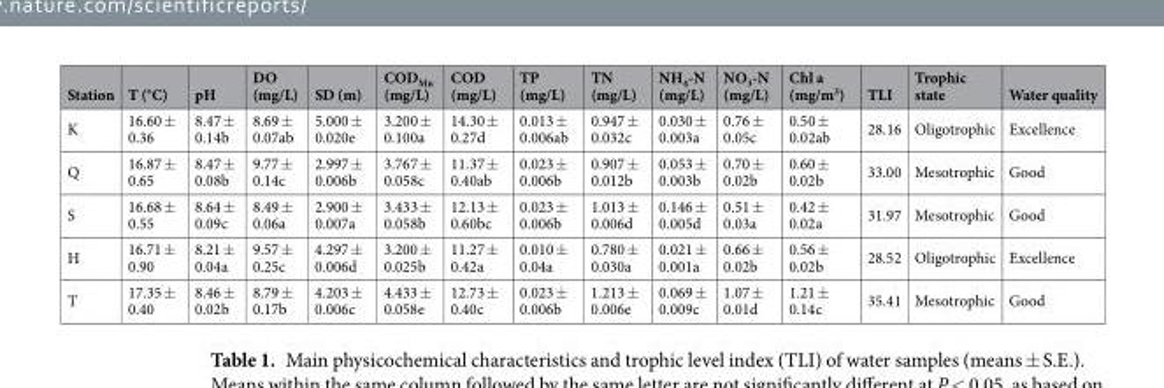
<table><thead><tr><td>Station</td><td>T (°C)</td><td>pH</td><td>DO (mg/L)</td><td>SD (m)</td><td>COD<sub>Mn</sub> (mg/L)</td><td>COD (mg/L)</td><td>TP (mg/L)</td><td>TN (mg/L)</td><td>NH<sub>4</sub>-N (mg/L)</td><td>NO<sub>3</sub>-N (mg/L)</td><td>Chl a (mg/m<sup>3</sup>)</td><td>TLI</td><td>Trophic state</td><td>Water quality</td></tr></thead><tbody><tr><td>K</td><td>16.60 ± 0.36</td><td>8.47 ± 0.14b</td><td>8.69 ± 0.07ab</td><td>5.000 ± 0.020e</td><td>3.200 ± 0.100a</td><td>14.30 ± 0.27d</td><td>0.013 ± 0.006ab</td><td>0.947 ± 0.032c</td><td>0.030 ± 0.003a</td><td>0.76 ± 0.05c</td><td>0.50 ± 0.02ab</td><td>28.16</td><td>Oligotrophic</td><td>Excellence</td></tr><tr><td>Q</td><td>16.87 ± 0.65</td><td>8.47 ± 0.08b</td><td>9.77 ± 0.14c</td><td>2.997 ± 0.006b</td><td>3.767 ± 0.058c</td><td>11.37 ± 0.40ab</td><td>0.023 ± 0.006b</td><td>0.907 ± 0.012b</td><td>0.053 ± 0.003b</td><td>0.70 ± 0.02b</td><td>0.60 ± 0.02b</td><td>33.00</td><td>Mesotrophic</td><td>Good</td></tr><tr><td>S</td><td>16.68 ± 0.55</td><td>8.64 ± 0.09c</td><td>8.49 ± 0.06a</td><td>2.900 ± 0.007a</td><td>3.433 ± 0.058b</td><td>12.13 ± 0.60bc</td><td>0.023 ± 0.006b</td><td>1.013 ± 0.006d</td><td>0.146 ± 0.005d</td><td>0.51 ± 0.03a</td><td>0.42 ± 0.02a</td><td>31.97</td><td>Mesotrophic</td><td>Good</td></tr><tr><td>H</td><td>16.71 ± 0.90</td><td>8.21 ± 0.04a</td><td>9.57 ± 0.25c</td><td>4.297 ± 0.006d</td><td>3.200 ± 0.025b</td><td>11.27 ± 0.42a</td><td>0.010 ± 0.04a</td><td>0.780 ± 0.030a</td><td>0.021 ± 0.001a</td><td>0.66 ± 0.02b</td><td>0.56 ± 0.02b</td><td>28.52</td><td>Oligotrophic</td><td>Excellence</td></tr><tr><td>T</td><td>17.35 ± 0.40</td><td>8.46 ± 0.02b</td><td>8.79 ± 0.17b</td><td>4.203 ± 0.006c</td><td>4.433 ± 0.058e</td><td>12.73 ± 0.40c</td><td>0.023 ± 0.006b</td><td>1.213 ± 0.006e</td><td>0.069 ± 0.009c</td><td>1.07 ± 0.01d</td><td>1.21 ± 0.14c</td><td>35.41</td><td>Mesotrophic</td><td>Good</td></tr></tbody></table>